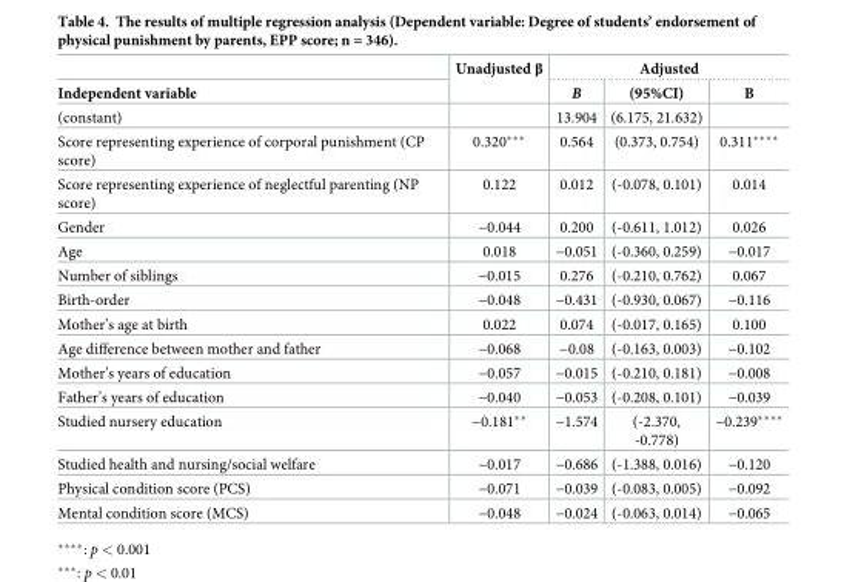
<table><thead><tr><td rowspan="2">Independent variable</td><td rowspan="2">Unadjusted β</td><td colspan="3">Adjusted</td></tr><tr><td>B</td><td>(95%CI)</td><td>Β</td></tr></thead><tbody><tr><td>(constant)</td><td></td><td>13.904</td><td>(6.175, 21.632)</td><td></td></tr><tr><td>Score representing experience of corporal punishment (CP score)</td><td>0.320***</td><td>0.564</td><td>(0.373, 0.754)</td><td>0.311****</td></tr><tr><td>Score representing experience of neglectful parenting (NP score)</td><td>0.122</td><td>0.012</td><td>(-0.078, 0.101)</td><td>0.014</td></tr><tr><td>Gender</td><td>−0.044</td><td>0.200</td><td>(-0.611, 1.012)</td><td>0.026</td></tr><tr><td>Age</td><td>0.018</td><td>−0.051</td><td>(-0.360, 0.259)</td><td>−0.017</td></tr><tr><td>Number of siblings</td><td>−0.015</td><td>0.276</td><td>(-0.210, 0.762)</td><td>0.067</td></tr><tr><td>Birth-order</td><td>−0.048</td><td>−0.431</td><td>(-0.930, 0.067)</td><td>−0.116</td></tr><tr><td>Mother’s age at birth</td><td>0.022</td><td>0.074</td><td>(-0.017, 0.165)</td><td>0.100</td></tr><tr><td>Age difference between mother and father</td><td>−0.068</td><td>−0.08</td><td>(-0.163, 0.003)</td><td>−0.102</td></tr><tr><td>Mother’s years of education</td><td>−0.057</td><td>−0.015</td><td>(-0.210, 0.181)</td><td>−0.008</td></tr><tr><td>Father’s years of education</td><td>−0.040</td><td>−0.053</td><td>(-0.208, 0.101)</td><td>−0.039</td></tr><tr><td>Studied nursery education</td><td>−0.181**</td><td>−1.574</td><td>(-2.370, -0.778)</td><td>−0.239****</td></tr><tr><td>Studied health and nursing/social welfare</td><td>−0.017</td><td>−0.686</td><td>(-1.388, 0.016)</td><td>−0.120</td></tr><tr><td>Physical condition score (PCS)</td><td>−0.071</td><td>−0.039</td><td>(-0.083, 0.005)</td><td>−0.092</td></tr><tr><td>Mental condition score (MCS)</td><td>−0.048</td><td>−0.024</td><td>(-0.063, 0.014)</td><td>−0.065</td></tr></tbody></table>